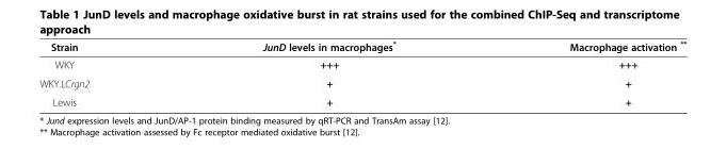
<table><thead><tr><td>Strain</td><td>JunD levels in macrophages*</td><td>Macrophage activation **</td></tr></thead><tbody><tr><td>WKY</td><td>+++</td><td>+++</td></tr><tr><td>WKY.LCrgn2</td><td>+</td><td>+</td></tr><tr><td>Lewis</td><td>+</td><td>+</td></tr></tbody></table>